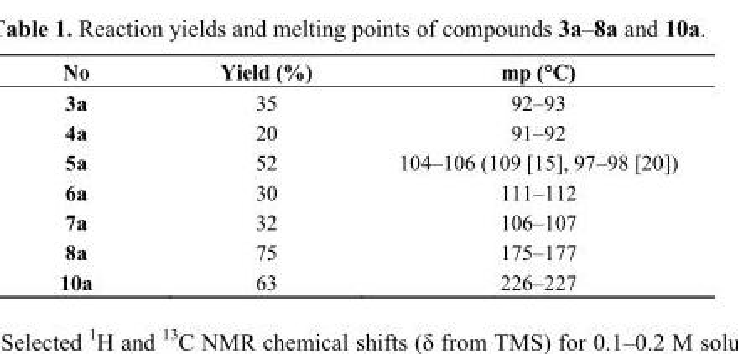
<table><thead><tr><td>No</td><td>Yield (%)</td><td>mp (°C)</td></tr></thead><tbody><tr><td>3a</td><td>35</td><td>92–93</td></tr><tr><td>4a</td><td>20</td><td>91–92</td></tr><tr><td>5a</td><td>52</td><td>104–106 (109 [15], 97–98 [20])</td></tr><tr><td>6a</td><td>30</td><td>111–112</td></tr><tr><td>7a</td><td>32</td><td>106–107</td></tr><tr><td>8a</td><td>75</td><td>175–177</td></tr><tr><td>10a</td><td>63</td><td>226–227</td></tr></tbody></table>